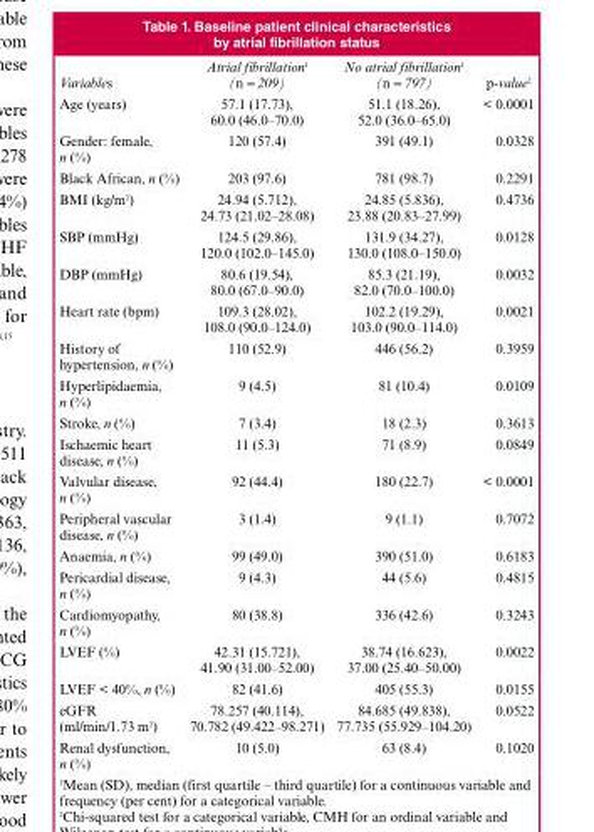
<table><thead><tr><td>Variables</td><td>Atrial fibrillation<sup>1</sup> (n = 209)</td><td>No atrial fibrillation<sup>1</sup> (n = 797)</td><td>p-value<sup>2</sup></td></tr></thead><tbody><tr><td>Age (years)</td><td>57.1 (17.73), 60.0 (46.0–70.0)</td><td>51.1 (18.26), 52.0 (36.0–65.0)</td><td>&lt; 0.0001</td></tr><tr><td>Gender: female, n (%)</td><td>120 (57.4)</td><td>391 (49.1)</td><td>0.0328</td></tr><tr><td>Black African, n (%)</td><td>203 (97.6)</td><td>781 (98.7)</td><td>0.2291</td></tr><tr><td>BMI (kg/m<sup>2</sup>)</td><td>24.94 (5.712), 24.73 (21.02–28.08)</td><td>24.85 (5.836), 23.88 (20.83–27.99)</td><td>0.4736</td></tr><tr><td>SBP (mmHg)</td><td>124.5 (29.86), 120.0 (102.0–145.0)</td><td>131.9 (34.27), 130.0 (108.0–150.0)</td><td>0.0128</td></tr><tr><td>DBP (mmHg)</td><td>80.6 (19.54), 80.0 (67.0–90.0)</td><td>85.3 (21.19), 82.0 (70.0–100.0)</td><td>0.0032</td></tr><tr><td>Heart rate (bpm)</td><td>109.3 (28.02), 108.0 (90.0–124.0)</td><td>102.2 (19.29), 103.0 (90.0–114.0)</td><td>0.0021</td></tr><tr><td>History of hypertension, n (%)</td><td>110 (52.9)</td><td>446 (56.2)</td><td>0.3959</td></tr><tr><td>Hyperlipidaemia, n (%)</td><td>9 (4.5)</td><td>81 (10.4)</td><td>0.0109</td></tr><tr><td>Stroke, n (%)</td><td>7 (3.4)</td><td>18 (2.3)</td><td>0.3613</td></tr><tr><td>Ischaemic heart disease, n (%)</td><td>11 (5.3)</td><td>71 (8.9)</td><td>0.0849</td></tr><tr><td>Valvular disease, n (%)</td><td>92 (44.4)</td><td>180 (22.7)</td><td>&lt; 0.0001</td></tr><tr><td>Peripheral vascular disease, n (%)</td><td>3 (1.4)</td><td>9 (1.1)</td><td>0.7072</td></tr><tr><td>Anaemia, n (%)</td><td>99 (49.0)</td><td>390 (51.0)</td><td>0.6183</td></tr><tr><td>Pericardial disease, n (%)</td><td>9 (4.3)</td><td>44 (5.6)</td><td>0.4815</td></tr><tr><td>Cardiomyopathy, n (%)</td><td>80 (38.8)</td><td>336 (42.6)</td><td>0.3243</td></tr><tr><td>LVEF (%)</td><td>42.31 (15.721), 41.90 (31.00–52.00)</td><td>38.74 (16.623), 37.00 (25.40–50.00)</td><td>0.0022</td></tr><tr><td>LVEF &lt; 40%, n (%)</td><td>82 (41.6)</td><td>405 (55.3)</td><td>0.0155</td></tr><tr><td>eGFR (ml/min/1.73 m<sup>2</sup>)</td><td>78.257 (40.114), 70.782 (49.422–98.271)</td><td>84.685 (49.838), 77.735 (55.929–104.20)</td><td>0.0522</td></tr><tr><td>Renal dysfunction, n (%)</td><td>10 (5.0)</td><td>63 (8.4)</td><td>0.1020</td></tr></tbody></table>